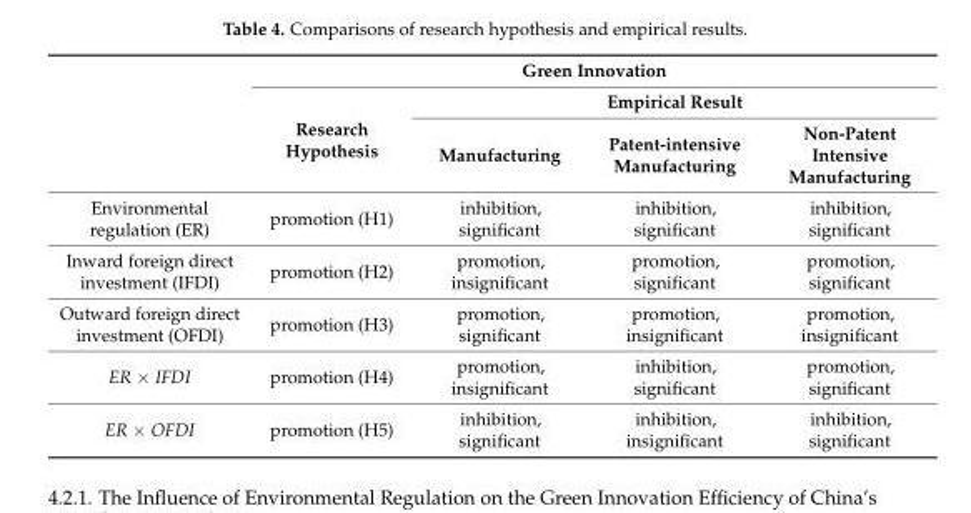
<table><thead><tr><td rowspan="3"></td><td colspan="4">Green Innovation</td></tr><tr><td rowspan="2">Research Hypothesis</td><td colspan="3">Empirical Result</td></tr><tr><td>Manufacturing</td><td>Patent-intensive Manufacturing</td><td>Non-Patent Intensive Manufacturing</td></tr></thead><tbody><tr><td>Environmental regulation (ER)</td><td>promotion (H1)</td><td>inhibition, significant</td><td>inhibition, significant</td><td>inhibition, significant</td></tr><tr><td>Inward foreign direct investment (IFDI)</td><td>promotion (H2)</td><td>promotion, insignificant</td><td>promotion, significant</td><td>promotion, significant</td></tr><tr><td>Outward foreign direct investment (OFDI)</td><td>promotion (H3)</td><td>promotion, significant</td><td>promotion, insignificant</td><td>promotion, insignificant</td></tr><tr><td>ER × IFDI</td><td>promotion (H4)</td><td>promotion, insignificant</td><td>inhibition, significant</td><td>promotion, significant</td></tr><tr><td>ER × OFDI</td><td>promotion (H5)</td><td>inhibition, significant</td><td>inhibition, insignificant</td><td>inhibition, significant</td></tr></tbody></table>